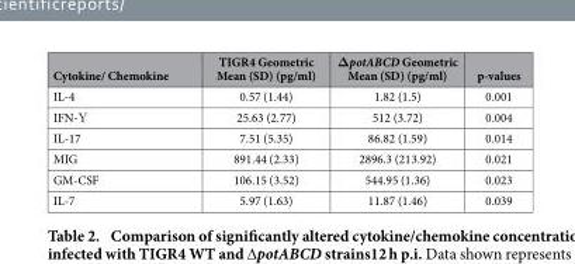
<table><thead><tr><td>Cytokine/ Chemokine</td><td>TIGR4 Geometric Mean (SD) (pg/ml)</td><td>ΔpotABCD Geometric Mean (SD) (pg/ml)</td><td>p-values</td></tr></thead><tbody><tr><td>IL-4</td><td>0.57 (1.44)</td><td>1.82 (1.5)</td><td>0.001</td></tr><tr><td>IFN-Υ</td><td>25.63 (2.77)</td><td>512 (3.72)</td><td>0.004</td></tr><tr><td>IL-17</td><td>7.51 (5.35)</td><td>86.82 (1.59)</td><td>0.014</td></tr><tr><td>MIG</td><td>891.44 (2.33)</td><td>2896.3 (213.92)</td><td>0.021</td></tr><tr><td>GM-CSF</td><td>106.15 (3.52)</td><td>544.95 (1.36)</td><td>0.023</td></tr><tr><td>IL-7</td><td>5.97 (1.63)</td><td>11.87 (1.46)</td><td>0.039</td></tr></tbody></table>